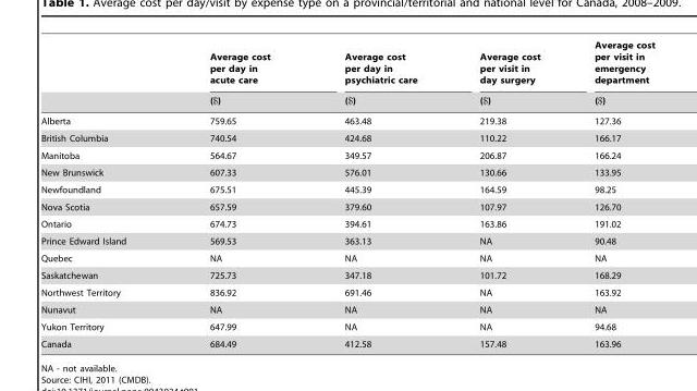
<table><thead><tr><td rowspan="2"></td><td rowspan="2">Average cost per day in acute care ($)</td><td rowspan="2">Average cost per day in psychiatric care ($)</td><td rowspan="2">Average cost per visit in day surgery ($)</td><td rowspan="2">Average cost per visit in emergency department ($)</td></tr><tr></tr></thead><tbody><tr><td>Alberta</td><td>759.65</td><td>463.48</td><td>219.38</td><td>127.36</td></tr><tr><td>British Columbia</td><td>740.54</td><td>424.68</td><td>110.22</td><td>166.17</td></tr><tr><td>Manitoba</td><td>564.67</td><td>349.57</td><td>206.87</td><td>166.24</td></tr><tr><td>New Brunswick</td><td>607.33</td><td>576.01</td><td>130.66</td><td>133.95</td></tr><tr><td>Newfoundland</td><td>675.51</td><td>445.39</td><td>164.59</td><td>98.25</td></tr><tr><td>Nova Scotia</td><td>657.59</td><td>379.60</td><td>107.97</td><td>126.70</td></tr><tr><td>Ontario</td><td>674.73</td><td>394.61</td><td>163.86</td><td>191.02</td></tr><tr><td>Prince Edward Island</td><td>569.53</td><td>363.13</td><td>NA</td><td>90.48</td></tr><tr><td>Quebec</td><td>NA</td><td>NA</td><td>NA</td><td>NA</td></tr><tr><td>Saskatchewan</td><td>725.73</td><td>347.18</td><td>101.72</td><td>168.29</td></tr><tr><td>Northwest Territory</td><td>836.92</td><td>691.46</td><td>NA</td><td>163.92</td></tr><tr><td>Nunavut</td><td>NA</td><td>NA</td><td>NA</td><td>NA</td></tr><tr><td>Yukon Territory</td><td>647.99</td><td>NA</td><td>NA</td><td>94.68</td></tr><tr><td>Canada</td><td>684.49</td><td>412.58</td><td>157.48</td><td>163.96</td></tr></tbody></table>